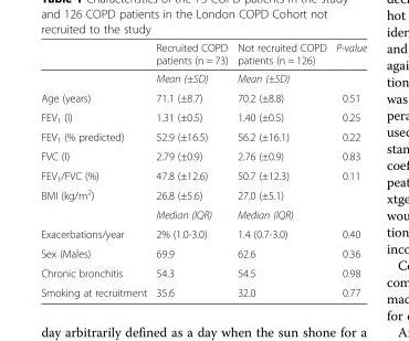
<table><thead><tr><td></td><td>Recruited COPD patients (n = 73)</td><td>Not recruited COPD patients (n = 126)</td><td>P-value</td></tr></thead><tbody><tr><td></td><td>Mean (±SD)</td><td>Mean (±SD)</td><td></td></tr><tr><td>Age (years)</td><td>71.1 (±8.7)</td><td>70.2 (±8.8)</td><td>0.51</td></tr><tr><td>FEV<sub>1</sub> (l)</td><td>1.31 (±0.5)</td><td>1.40 (±0.5)</td><td>0.25</td></tr><tr><td>FEV<sub>1</sub> (% predicted)</td><td>52.9 (±16.5)</td><td>56.2 (±16.1)</td><td>0.22</td></tr><tr><td>FVC (l)</td><td>2.79 (±0.9)</td><td>2.76 (±0.9)</td><td>0.83</td></tr><tr><td>FEV<sub>1</sub>/FVC (%)</td><td>47.8 (±12.6)</td><td>50.7 (±12.3)</td><td>0.11</td></tr><tr><td rowspan="2">BMI (kg/m<sup>2</sup>)</td><td>26.8 (±5.6)</td><td>27.0 (±5.1)</td><td></td></tr><tr><td>Median (IQR)</td><td>Median (IQR)</td><td></td></tr><tr><td>Exacerbations/year</td><td>2% (1.0-3.0)</td><td>1.4 (0.7-3.0)</td><td>0.40</td></tr><tr><td>Sex (Males)</td><td>69.9</td><td>62.6</td><td>0.36</td></tr><tr><td>Chronic bronchitis</td><td>54.3</td><td>54.5</td><td>0.98</td></tr><tr><td>Smoking at recruitment</td><td>35.6</td><td>32.0</td><td>0.77</td></tr></tbody></table>